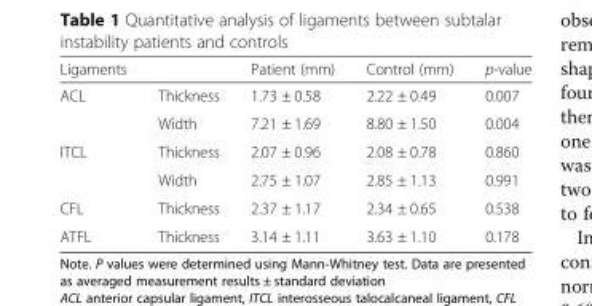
<table><thead><tr><td>Ligaments</td><td></td><td>Patient (mm)</td><td>Control (mm)</td><td>p-value</td></tr></thead><tbody><tr><td rowspan="2">ACL</td><td>Thickness</td><td>1.73 ± 0.58</td><td>2.22 ± 0.49</td><td>0.007</td></tr><tr><td>Width</td><td>7.21 ± 1.69</td><td>8.80 ± 1.50</td><td>0.004</td></tr><tr><td rowspan="2">ITCL</td><td>Thickness</td><td>2.07 ± 0.96</td><td>2.08 ± 0.78</td><td>0.860</td></tr><tr><td>Width</td><td>2.75 ± 1.07</td><td>2.85 ± 1.13</td><td>0.991</td></tr><tr><td>CFL</td><td>Thickness</td><td>2.37 ± 1.17</td><td>2.34 ± 0.65</td><td>0.538</td></tr><tr><td>ATFL</td><td>Thickness</td><td>3.14 ± 1.11</td><td>3.63 ± 1.10</td><td>0.178</td></tr></tbody></table>